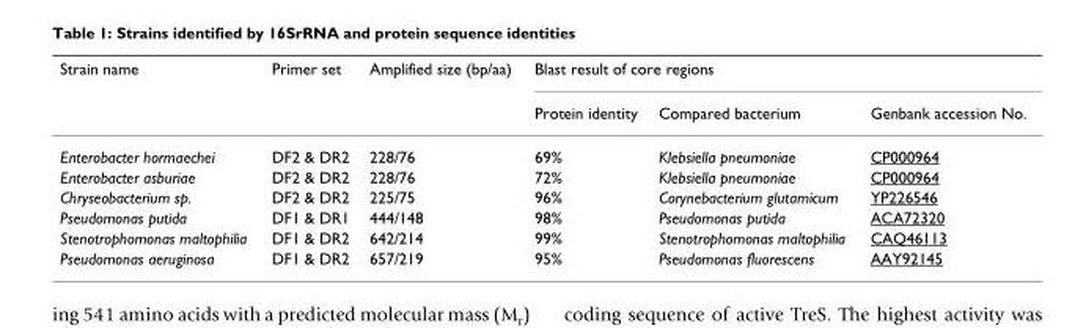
<table><thead><tr><td rowspan="2">Strain name</td><td rowspan="2">Primer set</td><td rowspan="2">Amplified size (bp/aa)</td><td colspan="3">Blast result of core regions</td></tr><tr><td>Protein identity</td><td>Compared bacterium</td><td>Genbank accession No.</td></tr></thead><tbody><tr><td>Enterobacter hormaechei</td><td>DF2 &amp; DR2</td><td>228/76</td><td>69%</td><td>Klebsiella pneumoniae</td><td>CP000964</td></tr><tr><td>Enterobacter asburiae</td><td>DF2 &amp; DR2</td><td>228/76</td><td>72%</td><td>Klebsiella pneumoniae</td><td>CP000964</td></tr><tr><td>Chryseobacterium sp.</td><td>DF2 &amp; DR2</td><td>225/75</td><td>96%</td><td>Corynebacterium glutamicum</td><td>YP226546</td></tr><tr><td>Pseudomonas putida</td><td>DF1 &amp; DR1</td><td>444/148</td><td>98%</td><td>Pseudomonas putida</td><td>ACA72320</td></tr><tr><td>Stenotrophomonas maltophilia</td><td>DF1 &amp; DR2</td><td>642/214</td><td>99%</td><td>Stenotrophomonas maltophilia</td><td>CAQ46113</td></tr><tr><td>Pseudomonas aeruginosa</td><td>DF1 &amp; DR2</td><td>657/219</td><td>95%</td><td>Pseudomonas fluorescens</td><td>AAY92145</td></tr></tbody></table>